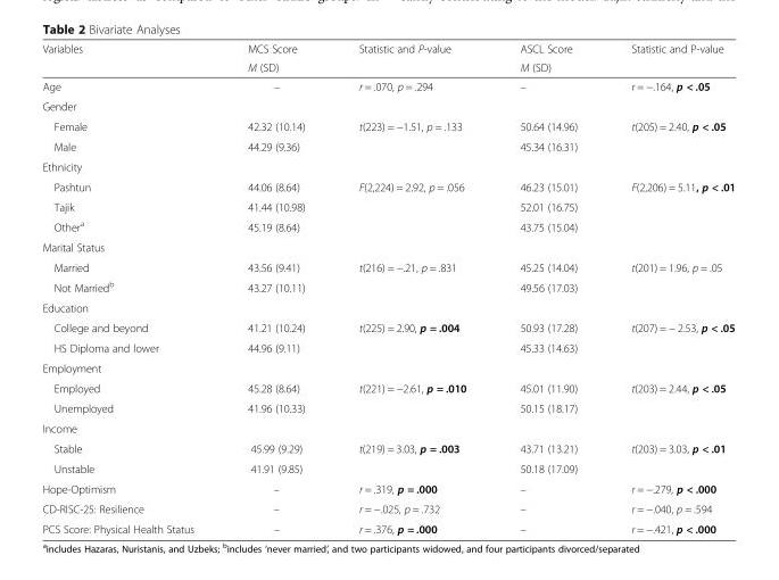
<table><thead><tr><td rowspan="2">Variables</td><td rowspan="2">MCS Score M (SD)</td><td rowspan="2">Statistic and P-value</td><td rowspan="2">ASCL Score M (SD)</td><td rowspan="2">Statistic and P-value</td></tr><tr></tr></thead><tbody><tr><td>Age</td><td>–</td><td>r = .070, p = .294</td><td>–</td><td>r = −.164, p &lt; .05</td></tr><tr><td colspan="5">Gender</td></tr><tr><td>Female</td><td>42.32 (10.14)</td><td rowspan="2">t(223) = −1.51, p = .133</td><td>50.64 (14.96)</td><td rowspan="2">t(205) = 2.40, p &lt; .05</td></tr><tr><td>Male</td><td>44.29 (9.36)</td><td>45.34 (16.31)</td></tr><tr><td colspan="5">Ethnicity</td></tr><tr><td>Pashtun</td><td>44.06 (8.64)</td><td rowspan="3">F(2,224) = 2.92, p = .056</td><td>46.23 (15.01)</td><td rowspan="3">F(2,206) = 5.11, p &lt; .01</td></tr><tr><td>Tajik</td><td>41.44 (10.98)</td><td>52.01 (16.75)</td></tr><tr><td>Other<sup>a</sup></td><td>45.19 (8.64)</td><td>43.75 (15.04)</td></tr><tr><td colspan="5">Marital Status</td></tr><tr><td>Married</td><td>43.56 (9.41)</td><td rowspan="2">t(216) = −.21, p = .831</td><td>45.25 (14.04)</td><td rowspan="2">t(201) = 1.96, p = .05</td></tr><tr><td>Not Married<sup>b</sup></td><td>43.27 (10.11)</td><td>49.56 (17.03)</td></tr><tr><td colspan="5">Education</td></tr><tr><td>College and beyond</td><td>41.21 (10.24)</td><td rowspan="2">t(225) = 2.90, p = .004</td><td>50.93 (17.28)</td><td rowspan="2">t(207) = − 2.53, p &lt; .05</td></tr><tr><td>HS Diploma and lower</td><td>44.96 (9.11)</td><td>45.33 (14.63)</td></tr><tr><td colspan="5">Employment</td></tr><tr><td>Employed</td><td>45.28 (8.64)</td><td rowspan="2">t(221) = −2.61, p = .010</td><td>45.01 (11.90)</td><td rowspan="2">t(203) = 2.44, p &lt; .05</td></tr><tr><td>Unemployed</td><td>41.96 (10.33)</td><td>50.15 (18.17)</td></tr><tr><td colspan="5">Income</td></tr><tr><td>Stable</td><td>45.99 (9.29)</td><td rowspan="2">t(219) = 3.03, p = .003</td><td>43.71 (13.21)</td><td rowspan="2">t(203) = 3.03, p &lt; .01</td></tr><tr><td>Unstable</td><td>41.91 (9.85)</td><td>50.18 (17.09)</td></tr><tr><td>Hope-Optimism</td><td>–</td><td>r = .319, p = .000</td><td>–</td><td>r = −.279, p &lt; .000</td></tr><tr><td>CD-RISC-25: Resilience</td><td>–</td><td>r = −.025, p = .732</td><td>–</td><td>r = −.040, p = .594</td></tr><tr><td>PCS Score: Physical Health Status</td><td>–</td><td>r = .376, p = .000</td><td>–</td><td>r = −.421, p &lt; .000</td></tr></tbody></table>